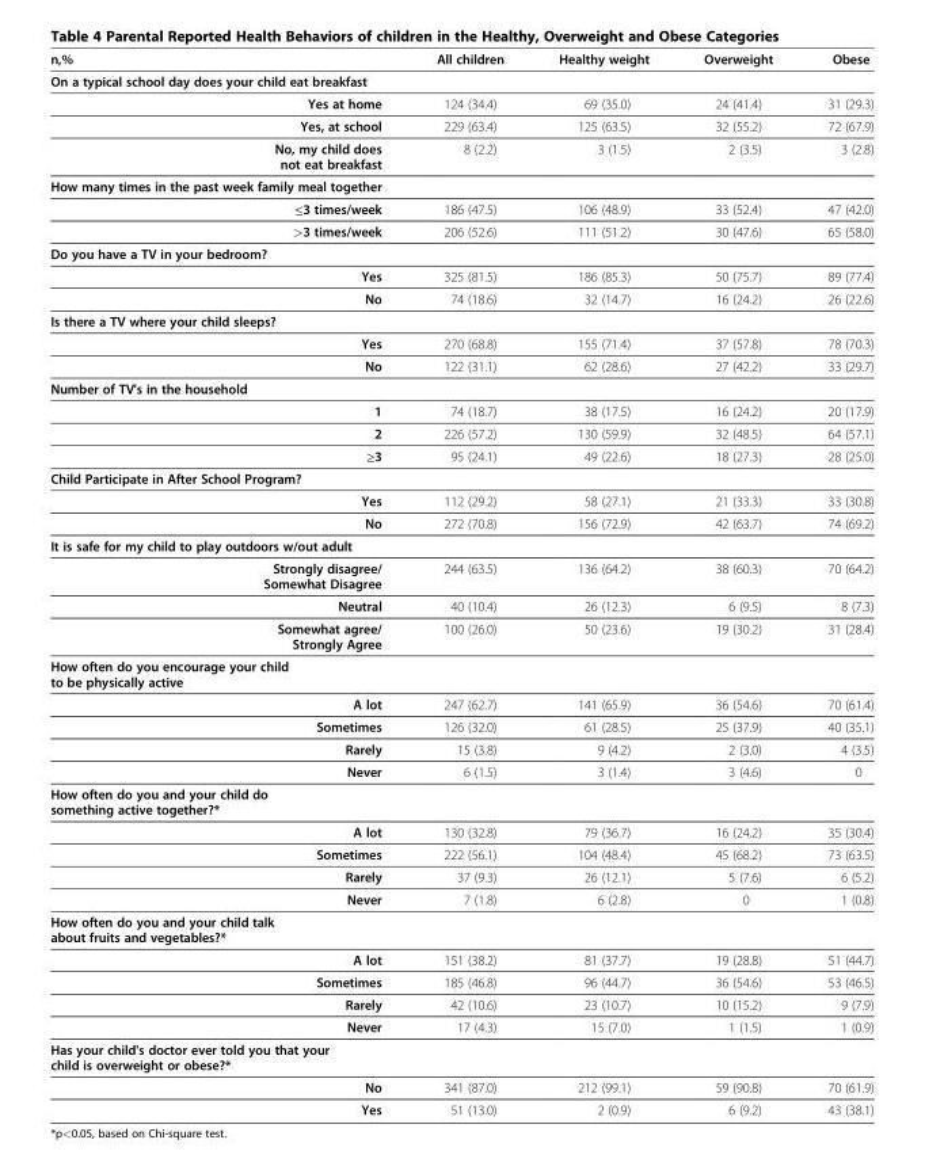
<table><thead><tr><td>n,%</td><td>All children</td><td>Healthy weight</td><td>Overweight</td><td>Obese</td></tr></thead><tbody><tr><td colspan="5">On a typical school day does your child eat breakfast</td></tr><tr><td>Yes at home</td><td>124 (34.4)</td><td>69 (35.0)</td><td>24 (41.4)</td><td>31 (29.3)</td></tr><tr><td>Yes, at school</td><td>229 (63.4)</td><td>125 (63.5)</td><td>32 (55.2)</td><td>72 (67.9)</td></tr><tr><td>No, my child does not eat breakfast</td><td>8 (2.2)</td><td>3 (1.5)</td><td>2 (3.5)</td><td>3 (2.8)</td></tr><tr><td colspan="5">How many times in the past week family meal together</td></tr><tr><td>≤3 times/week</td><td>186 (47.5)</td><td>106 (48.9)</td><td>33 (52.4)</td><td>47 (42.0)</td></tr><tr><td>&gt;3 times/week</td><td>206 (52.6)</td><td>111 (51.2)</td><td>30 (47.6)</td><td>65 (58.0)</td></tr><tr><td colspan="5">Do you have a TV in your bedroom?</td></tr><tr><td>Yes</td><td>325 (81.5)</td><td>186 (85.3)</td><td>50 (75.7)</td><td>89 (77.4)</td></tr><tr><td>No</td><td>74 (18.6)</td><td>32 (14.7)</td><td>16 (24.2)</td><td>26 (22.6)</td></tr><tr><td colspan="5">Is there a TV where your child sleeps?</td></tr><tr><td>Yes</td><td>270 (68.8)</td><td>155 (71.4)</td><td>37 (57.8)</td><td>78 (70.3)</td></tr><tr><td>No</td><td>122 (31.1)</td><td>62 (28.6)</td><td>27 (42.2)</td><td>33 (29.7)</td></tr><tr><td colspan="5">Number of TV&#x27;s in the household</td></tr><tr><td>1</td><td>74 (18.7)</td><td>38 (17.5)</td><td>16 (24.2)</td><td>20 (17.9)</td></tr><tr><td>2</td><td>226 (57.2)</td><td>130 (59.9)</td><td>32 (48.5)</td><td>64 (57.1)</td></tr><tr><td>≥3</td><td>95 (24.1)</td><td>49 (22.6)</td><td>18 (27.3)</td><td>28 (25.0)</td></tr><tr><td colspan="5">Child Participate in After School Program?</td></tr><tr><td>Yes</td><td>112 (29.2)</td><td>58 (27.1)</td><td>21 (33.3)</td><td>33 (30.8)</td></tr><tr><td>No</td><td>272 (70.8)</td><td>156 (72.9)</td><td>42 (63.7)</td><td>74 (69.2)</td></tr><tr><td colspan="5">It is safe for my child to play outdoors w/out adult</td></tr><tr><td>Strongly disagree/ Somewhat Disagree</td><td>244 (63.5)</td><td>136 (64.2)</td><td>38 (60.3)</td><td>70 (64.2)</td></tr><tr><td>Neutral</td><td>40 (10.4)</td><td>26 (12.3)</td><td>6 (9.5)</td><td>8 (7.3)</td></tr><tr><td>Somewhat agree/ Strongly Agree</td><td>100 (26.0)</td><td>50 (23.6)</td><td>19 (30.2)</td><td>31 (28.4)</td></tr><tr><td colspan="5">How often do you encourage your child to be physically active</td></tr><tr><td>A lot</td><td>247 (62.7)</td><td>141 (65.9)</td><td>36 (54.6)</td><td>70 (61.4)</td></tr><tr><td>Sometimes</td><td>126 (32.0)</td><td>61 (28.5)</td><td>25 (37.9)</td><td>40 (35.1)</td></tr><tr><td>Rarely</td><td>15 (3.8)</td><td>9 (4.2)</td><td>2 (3.0)</td><td>4 (3.5)</td></tr><tr><td>Never</td><td>6 (1.5)</td><td>3 (1.4)</td><td>3 (4.6)</td><td>0</td></tr><tr><td colspan="5">How often do you and your child do something active together?*</td></tr><tr><td>A lot</td><td>130 (32.8)</td><td>79 (36.7)</td><td>16 (24.2)</td><td>35 (30.4)</td></tr><tr><td>Sometimes</td><td>222 (56.1)</td><td>104 (48.4)</td><td>45 (68.2)</td><td>73 (63.5)</td></tr><tr><td>Rarely</td><td>37 (9.3)</td><td>26 (12.1)</td><td>5 (7.6)</td><td>6 (5.2)</td></tr><tr><td>Never</td><td>7 (1.8)</td><td>6 (2.8)</td><td>0</td><td>1 (0.8)</td></tr><tr><td colspan="5">How often do you and your child talk about fruits and vegetables?*</td></tr><tr><td>A lot</td><td>151 (38.2)</td><td>81 (37.7)</td><td>19 (28.8)</td><td>51 (44.7)</td></tr><tr><td>Sometimes</td><td>185 (46.8)</td><td>96 (44.7)</td><td>36 (54.6)</td><td>53 (46.5)</td></tr><tr><td>Rarely</td><td>42 (10.6)</td><td>23 (10.7)</td><td>10 (15.2)</td><td>9 (7.9)</td></tr><tr><td>Never</td><td>17 (4.3)</td><td>15 (7.0)</td><td>1 (1.5)</td><td>1 (0.9)</td></tr><tr><td colspan="5">Has your child&#x27;s doctor ever told you that your child is overweight or obese?*</td></tr><tr><td>No</td><td>341 (87.0)</td><td>212 (99.1)</td><td>59 (90.8)</td><td>70 (61.9)</td></tr><tr><td>Yes</td><td>51 (13.0)</td><td>2 (0.9)</td><td>6 (9.2)</td><td>43 (38.1)</td></tr></tbody></table>